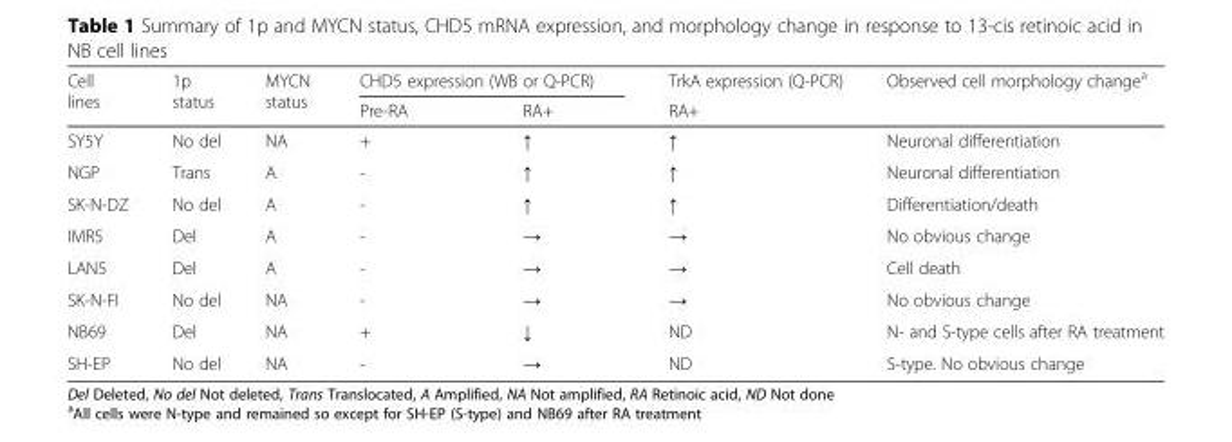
<table><thead><tr><td rowspan="2">Cell lines</td><td rowspan="2">1p status</td><td rowspan="2">MYCN status</td><td colspan="2">CHD5 expression (WB or Q-PCR)</td><td rowspan="2">TrkA expression (Q-PCR) RA+</td><td rowspan="2">Observed cell morphology change<sup>a</sup></td></tr><tr><td>Pre-RA</td><td>RA+</td></tr></thead><tbody><tr><td>SY5Y</td><td>No del</td><td>NA</td><td>+</td><td>↑</td><td>↑</td><td>Neuronal differentiation</td></tr><tr><td>NGP</td><td>Trans</td><td>A</td><td>-</td><td>↑</td><td>↑</td><td>Neuronal differentiation</td></tr><tr><td>SK-N-DZ</td><td>No del</td><td>A</td><td>-</td><td>↑</td><td>↑</td><td>Differentiation/death</td></tr><tr><td>IMR5</td><td>Del</td><td>A</td><td>-</td><td>→</td><td>→</td><td>No obvious change</td></tr><tr><td>LAN5</td><td>Del</td><td>A</td><td>-</td><td>→</td><td>→</td><td>Cell death</td></tr><tr><td>SK-N-FI</td><td>No del</td><td>NA</td><td>-</td><td>→</td><td>→</td><td>No obvious change</td></tr><tr><td>NB69</td><td>Del</td><td>NA</td><td>+</td><td>↓</td><td>ND</td><td>N- and S-type cells after RA treatment</td></tr><tr><td>SH-EP</td><td>No del</td><td>NA</td><td>-</td><td>→</td><td>ND</td><td>S-type. No obvious change</td></tr></tbody></table>